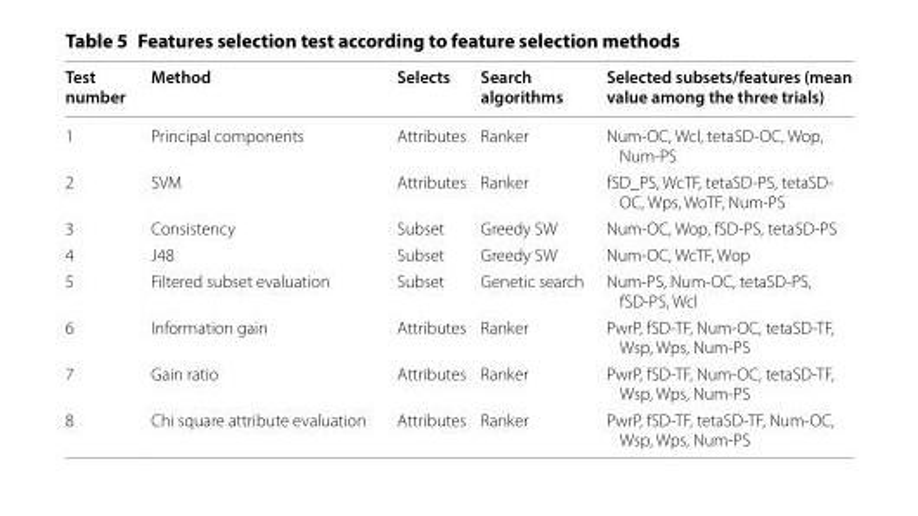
<table><thead><tr><td>Test number</td><td>Method</td><td>Selects</td><td>Search algorithms</td><td>Selected subsets/features (mean value among the three trials)</td></tr></thead><tbody><tr><td>1</td><td>Principal components</td><td>Attributes</td><td>Ranker</td><td>Num-OC, Wcl, tetaSD-OC, Wop, Num-PS</td></tr><tr><td>2</td><td>SVM</td><td>Attributes</td><td>Ranker</td><td>fSD_PS, WcTF, tetaSD-PS, tetaSD- OC, Wps, WoTF, Num-PS</td></tr><tr><td>3</td><td>Consistency</td><td>Subset</td><td>Greedy SW</td><td>Num-OC, Wop, fSD-PS, tetaSD-PS</td></tr><tr><td>4</td><td>J48</td><td>Subset</td><td>Greedy SW</td><td>Num-OC, WcTF, Wop</td></tr><tr><td>5</td><td>Filtered subset evaluation</td><td>Subset</td><td>Genetic search</td><td>Num-PS, Num-OC, tetaSD-PS, fSD-PS, Wcl</td></tr><tr><td>6</td><td>Information gain</td><td>Attributes</td><td>Ranker</td><td>PwrP, fSD-TF, Num-OC, tetaSD-TF, Wsp, Wps, Num-PS</td></tr><tr><td>7</td><td>Gain ratio</td><td>Attributes</td><td>Ranker</td><td>PwrP, fSD-TF, Num-OC, tetaSD-TF, Wsp, Wps, Num-PS</td></tr><tr><td>8</td><td>Chi square attribute evaluation</td><td>Attributes</td><td>Ranker</td><td>PwrP, fSD-TF, tetaSD-TF, Num-OC, Wsp, Wps, Num-PS</td></tr></tbody></table>